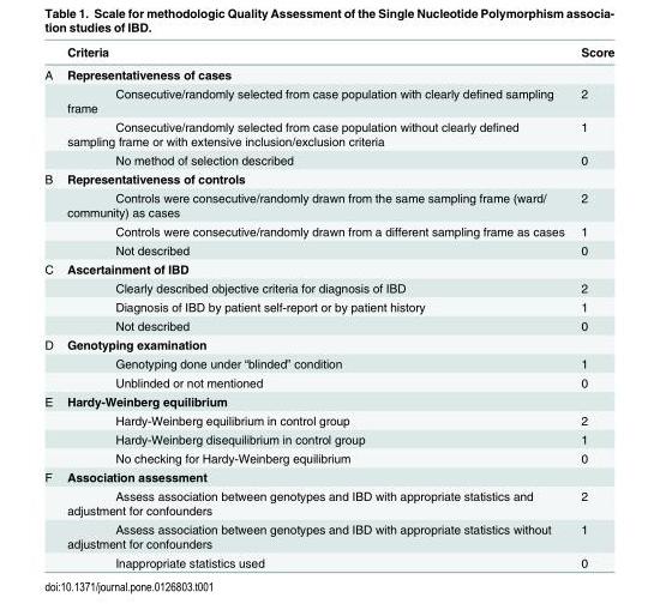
<table><thead><tr><td></td><td>Criteria</td><td>Score</td></tr></thead><tbody><tr><td rowspan="4">A</td><td>Representativeness of cases</td><td></td></tr><tr><td>Consecutive/randomly selected from case population with clearly defined sampling frame</td><td>2</td></tr><tr><td>Consecutive/randomly selected from case population without clearly defined sampling frame or with extensive inclusion/exclusion criteria</td><td>1</td></tr><tr><td>No method of selection described</td><td>0</td></tr><tr><td rowspan="4">B</td><td>Representativeness of controls</td><td></td></tr><tr><td>Controls were consecutive/randomly drawn from the same sampling frame (ward/ community) as cases</td><td>2</td></tr><tr><td>Controls were consecutive/randomly drawn from a different sampling frame as cases</td><td>1</td></tr><tr><td>Not described</td><td>0</td></tr><tr><td rowspan="4">C</td><td>Ascertainment of IBD</td><td></td></tr><tr><td>Clearly described objective criteria for diagnosis of IBD</td><td>2</td></tr><tr><td>Diagnosis of IBD by patient self-report or by patient history</td><td>1</td></tr><tr><td>Not described</td><td>0</td></tr><tr><td rowspan="3">D</td><td>Genotyping examination</td><td></td></tr><tr><td>Genotyping done under “blinded” condition</td><td>1</td></tr><tr><td>Unblinded or not mentioned</td><td>0</td></tr><tr><td rowspan="4">E</td><td>Hardy-Weinberg equilibrium</td><td></td></tr><tr><td>Hardy-Weinberg equilibrium in control group</td><td>2</td></tr><tr><td>Hardy-Weinberg disequilibrium in control group</td><td>1</td></tr><tr><td>No checking for Hardy-Weinberg equilibrium</td><td>0</td></tr><tr><td rowspan="4">F</td><td>Association assessment</td><td></td></tr><tr><td>Assess association between genotypes and IBD with appropriate statistics and adjustment for confounders</td><td>2</td></tr><tr><td>Assess association between genotypes and IBD with appropriate statistics without adjustment for confounders</td><td>1</td></tr><tr><td>Inappropriate statistics used</td><td>0</td></tr></tbody></table>